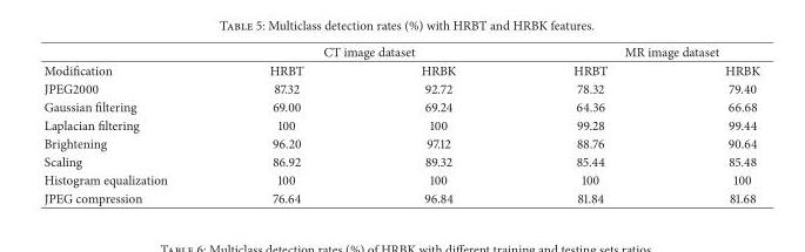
<table><thead><tr><td rowspan="2">Modification</td><td colspan="2">CT image dataset</td><td colspan="2">MR image dataset</td></tr><tr><td>HRBT</td><td>HRBK</td><td>HRBT</td><td>HRBK</td></tr></thead><tbody><tr><td>JPEG2000</td><td>87.32</td><td>92.72</td><td>78.32</td><td>79.40</td></tr><tr><td>Gaussian filtering</td><td>69.00</td><td>69.24</td><td>64.36</td><td>66.68</td></tr><tr><td>Laplacian filtering</td><td>100</td><td>100</td><td>99.28</td><td>99.44</td></tr><tr><td>Brightening</td><td>96.20</td><td>97.12</td><td>88.76</td><td>90.64</td></tr><tr><td>Scaling</td><td>86.92</td><td>89.32</td><td>85.44</td><td>85.48</td></tr><tr><td>Histogram equalization</td><td>100</td><td>100</td><td>100</td><td>100</td></tr><tr><td>JPEG compression</td><td>76.64</td><td>96.84</td><td>81.84</td><td>81.68</td></tr></tbody></table>